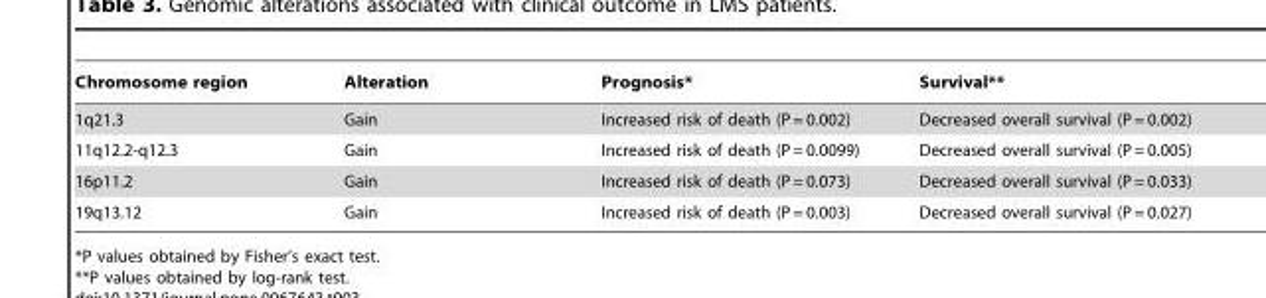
<table><thead><tr><td>Chromosome region</td><td>Alteration</td><td>Prognosis*</td><td>Survival**</td></tr></thead><tbody><tr><td>1q21.3</td><td>Gain</td><td>Increased risk of death (P = 0.002)</td><td>Decreased overall survival (P = 0.002)</td></tr><tr><td>11q12.2-q12.3</td><td>Gain</td><td>Increased risk of death (P = 0.0099)</td><td>Decreased overall survival (P = 0.005)</td></tr><tr><td>16p11.2</td><td>Gain</td><td>Increased risk of death (P = 0.073)</td><td>Decreased overall survival (P = 0.033)</td></tr><tr><td>19q13.12</td><td>Gain</td><td>Increased risk of death (P = 0.003)</td><td>Decreased overall survival (P = 0.027)</td></tr></tbody></table>